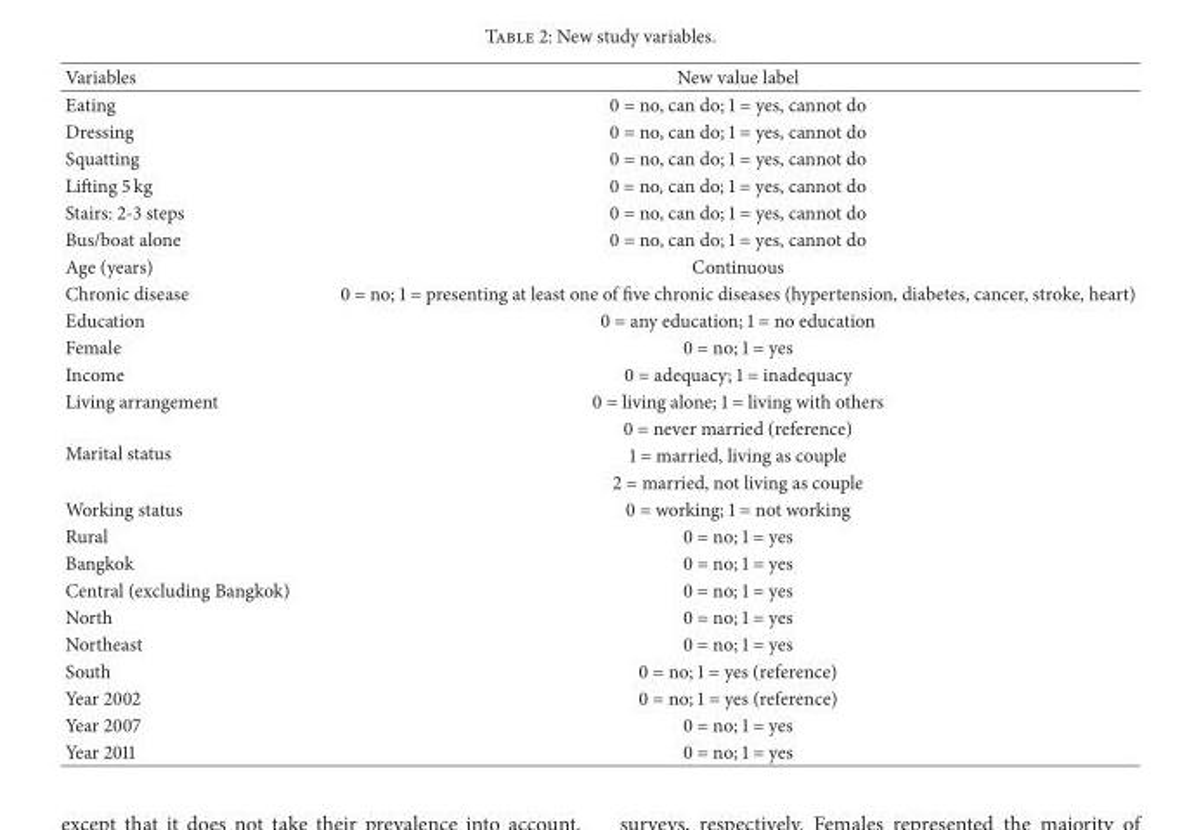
<table><thead><tr><td>Variables</td><td>New value label</td></tr></thead><tbody><tr><td>Eating</td><td>0 = no, can do; 1 = yes, cannot do</td></tr><tr><td>Dressing</td><td>0 = no, can do; 1 = yes, cannot do</td></tr><tr><td>Squatting</td><td>0 = no, can do; 1 = yes, cannot do</td></tr><tr><td>Lifting 5 kg</td><td>0 = no, can do; 1 = yes, cannot do</td></tr><tr><td>Stairs: 2-3 steps</td><td>0 = no, can do; 1 = yes, cannot do</td></tr><tr><td>Bus/boat alone</td><td>0 = no, can do; 1 = yes, cannot do</td></tr><tr><td>Age (years)</td><td>Continuous</td></tr><tr><td>Chronic disease</td><td>0 = no; 1 = presenting at least one of five chronic diseases (hypertension, diabetes, cancer, stroke, heart)</td></tr><tr><td>Education</td><td>0 = any education; 1 = no education</td></tr><tr><td>Female</td><td>0 = no; 1 = yes</td></tr><tr><td>Income</td><td>0 = adequacy; 1 = inadequacy</td></tr><tr><td>Living arrangement</td><td>0 = living alone; 1 = living with others</td></tr><tr><td rowspan="3">Marital status</td><td>0 = never married (reference)</td></tr><tr><td>1 = married, living as couple</td></tr><tr><td>2 = married, not living as couple</td></tr><tr><td>Working status</td><td>0 = working; 1 = not working</td></tr><tr><td>Rural</td><td>0 = no; 1 = yes</td></tr><tr><td>Bangkok</td><td>0 = no; 1 = yes</td></tr><tr><td>Central (excluding Bangkok)</td><td>0 = no; 1 = yes</td></tr><tr><td>North</td><td>0 = no; 1 = yes</td></tr><tr><td>Northeast</td><td>0 = no; 1 = yes</td></tr><tr><td>South</td><td>0 = no; 1 = yes (reference)</td></tr><tr><td>Year 2002</td><td>0 = no; 1 = yes (reference)</td></tr><tr><td>Year 2007</td><td>0 = no; 1 = yes</td></tr><tr><td>Year 2011</td><td>0 = no; 1 = yes</td></tr></tbody></table>